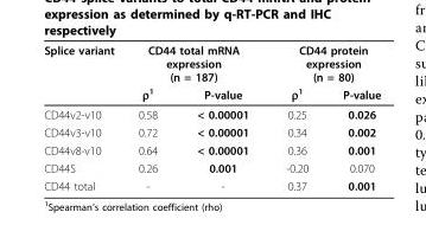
<table><thead><tr><td rowspan="2">Splice variant</td><td colspan="2">CD44 total mRNA expression (n = 187)</td><td colspan="2">CD44 protein expression (n = 80)</td></tr><tr><td>ρ<sup>1</sup></td><td>P-value</td><td>ρ<sup>1</sup></td><td>P-value</td></tr></thead><tbody><tr><td>CD44v2-v10</td><td>0.58</td><td>&lt; 0.00001</td><td>0.25</td><td>0.026</td></tr><tr><td>CD44v3-v10</td><td>0.72</td><td>&lt; 0.00001</td><td>0.34</td><td>0.002</td></tr><tr><td>CD44v8-v10</td><td>0.64</td><td>&lt; 0.00001</td><td>0.36</td><td>0.001</td></tr><tr><td>CD44S</td><td>0.26</td><td>0.001</td><td>-0.20</td><td>0.070</td></tr><tr><td>CD44 total</td><td>-</td><td>-</td><td>0.37</td><td>0.001</td></tr></tbody></table>